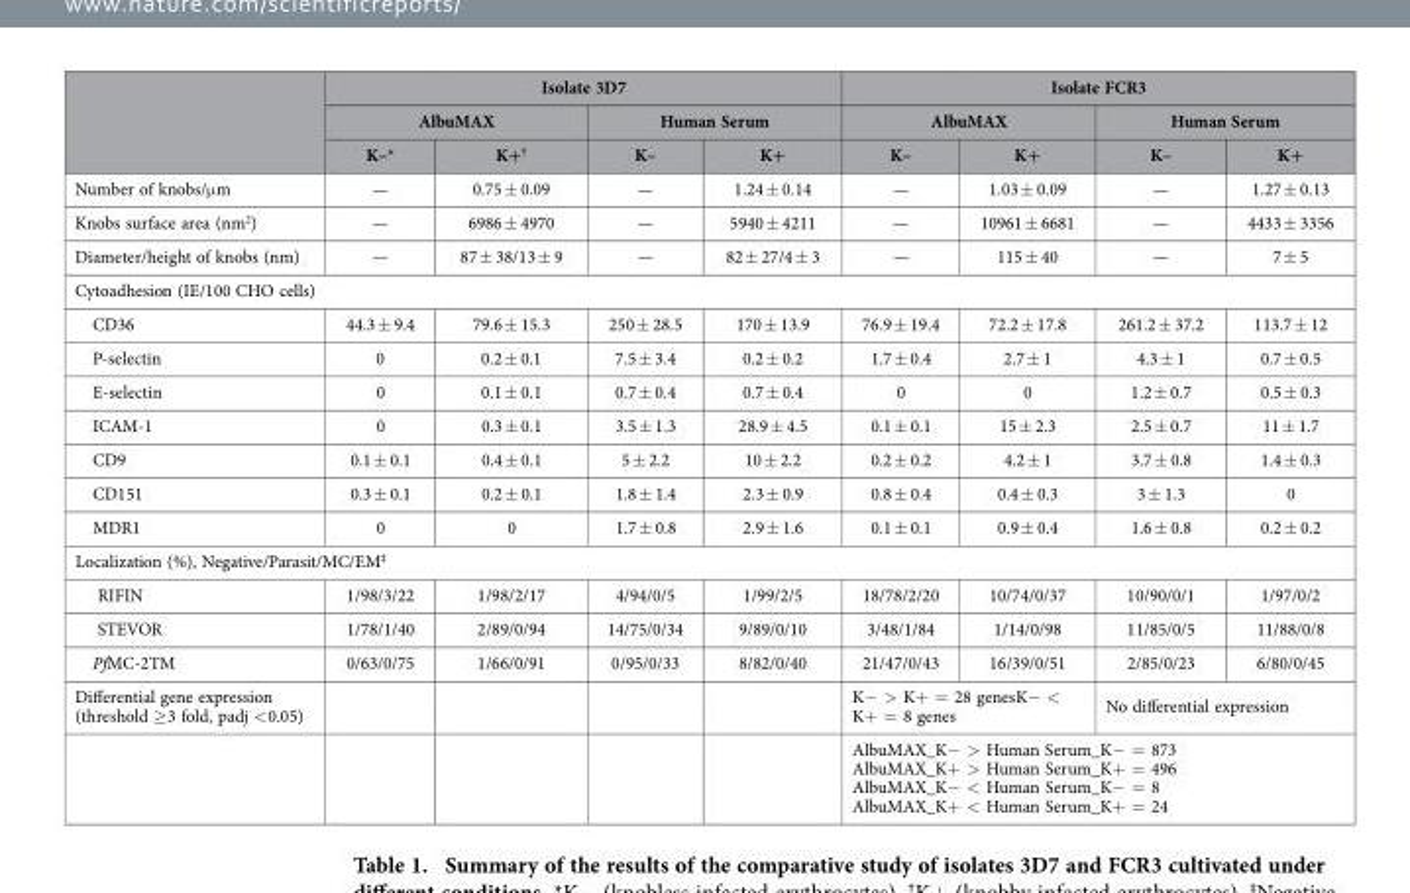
<table><thead><tr><td rowspan="3"></td><td colspan="4">Isolate 3D7</td><td colspan="4">Isolate FCR3</td></tr><tr><td colspan="2">AlbuMAX</td><td colspan="2">Human Serum</td><td colspan="2">AlbuMAX</td><td colspan="2">Human Serum</td></tr><tr><td>K–*</td><td>K+†</td><td>K–</td><td>K+</td><td>K–</td><td>K+</td><td>K–</td><td>K+</td></tr></thead><tbody><tr><td>Number of knobs/μ m</td><td>—</td><td>0.75 ± 0.09</td><td>—</td><td>1.24 ± 0.14</td><td>—</td><td>1.03 ± 0.09</td><td>—</td><td>1.27 ± 0.13</td></tr><tr><td>Knobs surface area (nm<sup>2</sup>)</td><td>—</td><td>6986 ± 4970</td><td>—</td><td>5940 ± 4211</td><td>—</td><td>10961 ± 6681</td><td>—</td><td>4433 ± 3356</td></tr><tr><td>Diameter/height of knobs (nm)</td><td>—</td><td>87 ± 38/13 ± 9</td><td>—</td><td>82 ± 27/4 ± 3</td><td>—</td><td>115 ± 40</td><td>—</td><td>7 ± 5</td></tr><tr><td colspan="9">Cytoadhesion (IE/100 CHO cells)</td></tr><tr><td>CD36</td><td>44.3 ± 9.4</td><td>79.6 ± 15.3</td><td>250 ± 28.5</td><td>170 ± 13.9</td><td>76.9 ± 19.4</td><td>72.2 ± 17.8</td><td>261.2 ± 37.2</td><td>113.7 ± 12</td></tr><tr><td>P-selectin</td><td>0</td><td>0.2 ± 0.1</td><td>7.5 ± 3.4</td><td>0.2 ± 0.2</td><td>1.7 ± 0.4</td><td>2.7 ± 1</td><td>4.3 ± 1</td><td>0.7 ± 0.5</td></tr><tr><td>E-selectin</td><td>0</td><td>0.1 ± 0.1</td><td>0.7 ± 0.4</td><td>0.7 ± 0.4</td><td>0</td><td>0</td><td>1.2 ± 0.7</td><td>0.5 ± 0.3</td></tr><tr><td>ICAM-1</td><td>0</td><td>0.3 ± 0.1</td><td>3.5 ± 1.3</td><td>28.9 ± 4.5</td><td>0.1 ± 0.1</td><td>15 ± 2.3</td><td>2.5 ± 0.7</td><td>11 ± 1.7</td></tr><tr><td>CD9</td><td>0.1 ± 0.1</td><td>0.4 ± 0.1</td><td>5 ± 2.2</td><td>10 ± 2.2</td><td>0.2 ± 0.2</td><td>4.2 ± 1</td><td>3.7 ± 0.8</td><td>1.4 ± 0.3</td></tr><tr><td>CD151</td><td>0.3 ± 0.1</td><td>0.2 ± 0.1</td><td>1.8 ± 1.4</td><td>2.3 ± 0.9</td><td>0.8 ± 0.4</td><td>0.4 ± 0.3</td><td>3 ± 1.3</td><td>0</td></tr><tr><td>MDR1</td><td>0</td><td>0</td><td>1.7 ± 0.8</td><td>2.9 ± 1.6</td><td>0.1 ± 0.1</td><td>0.9 ± 0.4</td><td>1.6 ± 0.8</td><td>0.2 ± 0.2</td></tr><tr><td colspan="9">Localization (%), Negative/Parasit/MC/EM‡</td></tr><tr><td>RIFIN</td><td>1/98/3/22</td><td>1/98/2/17</td><td>4/94/0/5</td><td>1/99/2/5</td><td>18/78/2/20</td><td>10/74/0/37</td><td>10/90/0/1</td><td>1/97/0/2</td></tr><tr><td>STEVOR</td><td>1/78/1/40</td><td>2/89/0/94</td><td>14/75/0/34</td><td>9/89/0/10</td><td>3/48/1/84</td><td>1/14/0/98</td><td>11/85/0/5</td><td>11/88/0/8</td></tr><tr><td>PfMC-2TM</td><td>0/63/0/75</td><td>1/66/0/91</td><td>0/95/0/33</td><td>8/82/0/40</td><td>21/47/0/43</td><td>16/39/0/51</td><td>2/85/0/23</td><td>6/80/0/45</td></tr><tr><td rowspan="2">Differential gene expression (threshold ≥ 3 fold, padj &lt; 0.05)</td><td></td><td></td><td></td><td></td><td colspan="2">K− &gt; K+ = 28 genesK− &lt; K+ = 8 genes</td><td colspan="2">No differential expression</td></tr><tr><td></td><td></td><td></td><td></td><td colspan="4">AlbuMAX_K− &gt; Human Serum_K− = 873 AlbuMAX_K+ &gt; Human Serum_K+ = 496 AlbuMAX_K− &lt; Human Serum_K− = 8 AlbuMAX_K+ &lt; Human Serum_K+ = 24</td></tr></tbody></table>